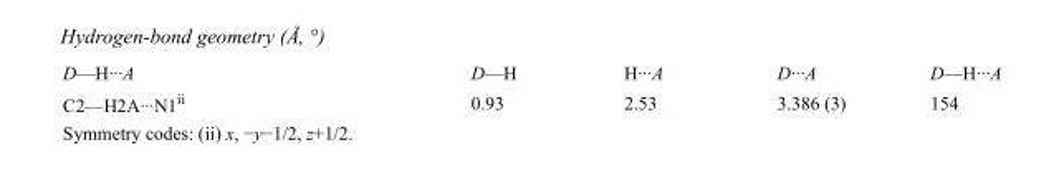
<table><tbody><tr><td>D—H···A</td><td>D—H</td><td>H···A</td><td>D···A</td><td>D—H···A</td></tr><tr><td>C2—H2A···N1<sup>ii</sup></td><td>0.93</td><td>2.53</td><td>3.386 (3)</td><td>154</td></tr></tbody></table>